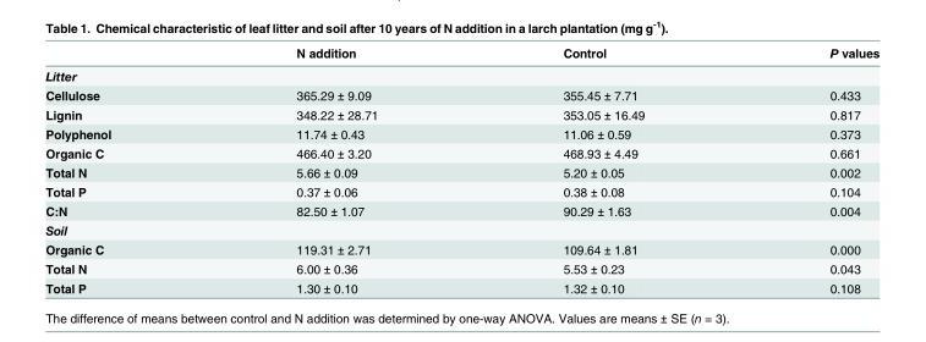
<table><thead><tr><td></td><td>N addition</td><td>Control</td><td>P values</td></tr></thead><tbody><tr><td colspan="4">Litter</td></tr><tr><td>Cellulose</td><td>365.29 ± 9.09</td><td>355.45 ± 7.71</td><td>0.433</td></tr><tr><td>Lignin</td><td>348.22 ± 28.71</td><td>353.05 ± 16.49</td><td>0.817</td></tr><tr><td>Polyphenol</td><td>11.74 ± 0.43</td><td>11.06 ± 0.59</td><td>0.373</td></tr><tr><td>Organic C</td><td>466.40 ± 3.20</td><td>468.93 ± 4.49</td><td>0.661</td></tr><tr><td>Total N</td><td>5.66 ± 0.09</td><td>5.20 ± 0.05</td><td>0.002</td></tr><tr><td>Total P</td><td>0.37 ± 0.06</td><td>0.38 ± 0.08</td><td>0.104</td></tr><tr><td>C:N</td><td>82.50 ± 1.07</td><td>90.29 ± 1.63</td><td>0.004</td></tr><tr><td colspan="4">Soil</td></tr><tr><td>Organic C</td><td>119.31 ± 2.71</td><td>109.64 ± 1.81</td><td>0.000</td></tr><tr><td>Total N</td><td>6.00 ± 0.36</td><td>5.53 ± 0.23</td><td>0.043</td></tr><tr><td>Total P</td><td>1.30 ± 0.10</td><td>1.32 ± 0.10</td><td>0.108</td></tr></tbody></table>